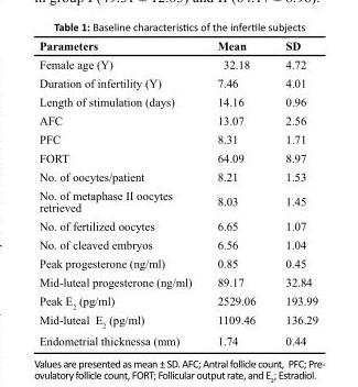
<table><thead><tr><td>Parameters</td><td>Mean</td><td>SD</td></tr></thead><tbody><tr><td>Female age (Y)</td><td>32.18</td><td>4.72</td></tr><tr><td>Duration of infertility (Y)</td><td>7.46</td><td>4.01</td></tr><tr><td>Length of stimulation (days)</td><td>14.16</td><td>0.96</td></tr><tr><td>AFC</td><td>13.07</td><td>2.56</td></tr><tr><td>PFC</td><td>8.31</td><td>1.71</td></tr><tr><td>FORT</td><td>64.09</td><td>8.97</td></tr><tr><td>No. of oocytes/patient</td><td>8.21</td><td>1.53</td></tr><tr><td>No. of metaphase II oocytes retrieved</td><td>8.03</td><td>1.45</td></tr><tr><td>No. of fertilized oocytes</td><td>6.65</td><td>1.07</td></tr><tr><td>No. of cleaved embryos</td><td>6.56</td><td>1.04</td></tr><tr><td>Peak progesterone (ng/ml)</td><td>0.85</td><td>0.45</td></tr><tr><td>Mid-luteal progesterone (ng/ml)</td><td>89.17</td><td>32.84</td></tr><tr><td>Peak E<sub>2</sub> (pg/ml)</td><td>2529.06</td><td>193.99</td></tr><tr><td>Mid-luteal E<sub>2</sub> (pg/ml)</td><td>1109.46</td><td>136.29</td></tr><tr><td>Endometrial thicknessa (mm)</td><td>1.74</td><td>0.44</td></tr></tbody></table>